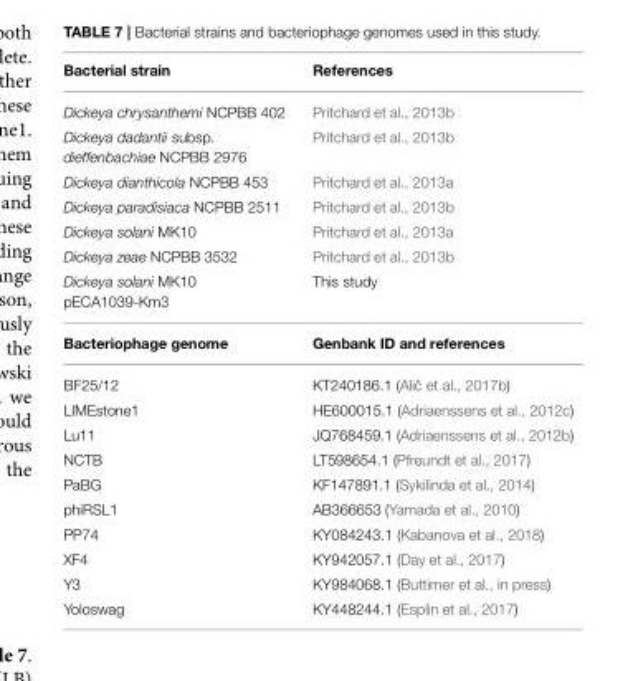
<table><thead><tr><td>Bacterial strain</td><td>References</td></tr></thead><tbody><tr><td>Dickeya chrysanthemi NCPBB 402</td><td>Pritchard et al., 2013b</td></tr><tr><td>Dickeya dadantii subsp. dieffenbachiae NCPBB 2976</td><td>Pritchard et al., 2013b</td></tr><tr><td>Dickeya dianthicola NCPBB 453</td><td>Pritchard et al., 2013a</td></tr><tr><td>Dickeya paradisiaca NCPBB 2511</td><td>Pritchard et al., 2013b</td></tr><tr><td>Dickeya solani MK10</td><td>Pritchard et al., 2013a</td></tr><tr><td>Dickeya zeae NCPBB 3532</td><td>Pritchard et al., 2013b</td></tr><tr><td>Dickeya solani MK10 pECA1039-Km3</td><td>This study</td></tr><tr><td>Bacteriophage genome</td><td>Genbank ID and references</td></tr><tr><td>BF25/12</td><td>KT240186.1 (Ali ˇc et al., 2017b)</td></tr><tr><td>LIMEstone1</td><td>HE600015.1 (Adriaenssens et al., 2012c)</td></tr><tr><td>Lu11</td><td>JQ768459.1 (Adriaenssens et al., 2012b)</td></tr><tr><td>NCTB</td><td>LT598654.1 (Pfreundt et al., 2017)</td></tr><tr><td>PaBG</td><td>KF147891.1 (Sykilinda et al., 2014)</td></tr><tr><td>phiRSL1</td><td>AB366653 (Yamada et al., 2010)</td></tr><tr><td>PP74</td><td>KY084243.1 (Kabanova et al., 2018)</td></tr><tr><td>XF4</td><td>KY942057.1 (Day et al., 2017)</td></tr><tr><td>Y3</td><td>KY984068.1 (Buttimer et al., in press)</td></tr><tr><td>Yoloswag</td><td>KY448244.1 (Esplin et al., 2017)</td></tr></tbody></table>